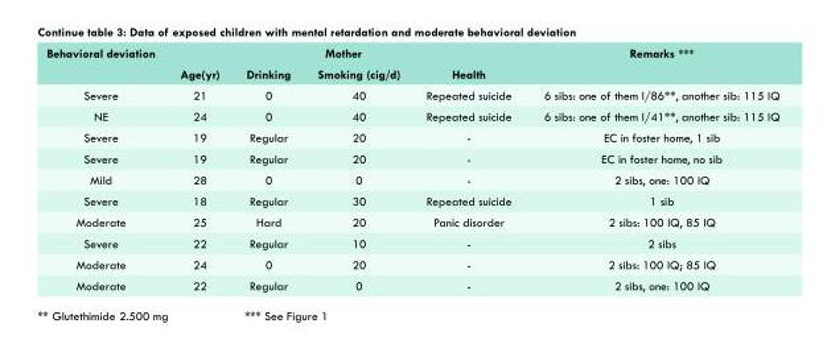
<table><thead><tr><td rowspan="2">Behavioral deviation</td><td colspan="4">Mother</td><td rowspan="2">Remarks ***</td></tr><tr><td>Age(yr)</td><td>Drinking</td><td>Smoking (cig/d)</td><td>Health</td></tr></thead><tbody><tr><td>Severe</td><td>21</td><td>0</td><td>40</td><td>Repeated suicide</td><td>6 sibs: one of them I/86**, another sib: 115 IQ</td></tr><tr><td>NE</td><td>24</td><td>0</td><td>40</td><td>Repeated suicide</td><td>6 sibs: one of them I/41**, another sib: 115 IQ</td></tr><tr><td>Severe</td><td>19</td><td>Regular</td><td>20</td><td>-</td><td>EC in foster home, 1 sib</td></tr><tr><td>Severe</td><td>19</td><td>Regular</td><td>20</td><td>-</td><td>EC in foster home, no sib</td></tr><tr><td>Mild</td><td>28</td><td>0</td><td>0</td><td>-</td><td>2 sibs, one: 100 IQ</td></tr><tr><td>Severe</td><td>18</td><td>Regular</td><td>30</td><td>Repeated suicide</td><td>1 sib</td></tr><tr><td>Moderate</td><td>25</td><td>Hard</td><td>20</td><td>Panic disorder</td><td>2 sibs: 100 IQ, 85 IQ</td></tr><tr><td>Severe</td><td>22</td><td>Regular</td><td>10</td><td>-</td><td>2 sibs</td></tr><tr><td>Moderate</td><td>24</td><td>0</td><td>20</td><td>-</td><td>2 sibs: 100 IQ; 85 IQ</td></tr><tr><td>Moderate</td><td>22</td><td>Regular</td><td>0</td><td>-</td><td>2 sibs, one: 100 IQ</td></tr></tbody></table>